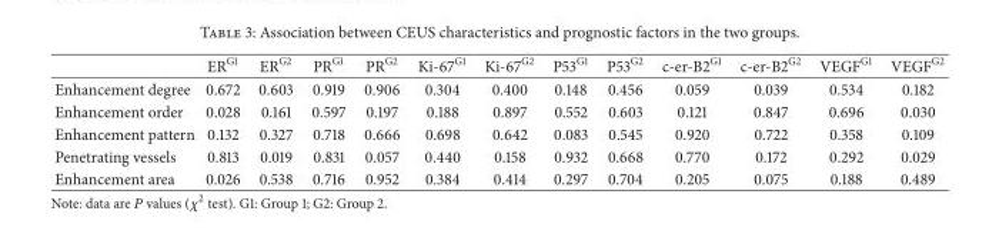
<table><thead><tr><td></td><td>ER<sup>G1</sup></td><td>ER<sup>G2</sup></td><td>PR<sup>G1</sup></td><td>PR<sup>G2</sup></td><td>Ki-67<sup>G1</sup></td><td>Ki-67<sup>G2</sup></td><td>P53<sup>G1</sup></td><td>P53<sup>G2</sup></td><td>c-er-B2<sup>G1</sup></td><td>c-er-B2<sup>G2</sup></td><td>VEGF<sup>G1</sup></td><td>VEGF<sup>G2</sup></td></tr></thead><tbody><tr><td>Enhancement degree</td><td>0.672</td><td>0.603</td><td>0.919</td><td>0.906</td><td>0.304</td><td>0.400</td><td>0.148</td><td>0.456</td><td>0.059</td><td>0.039</td><td>0.534</td><td>0.182</td></tr><tr><td>Enhancement order</td><td>0.028</td><td>0.161</td><td>0.597</td><td>0.197</td><td>0.188</td><td>0.897</td><td>0.552</td><td>0.603</td><td>0.121</td><td>0.847</td><td>0.696</td><td>0.030</td></tr><tr><td>Enhancement pattern</td><td>0.132</td><td>0.327</td><td>0.718</td><td>0.666</td><td>0.698</td><td>0.642</td><td>0.083</td><td>0.545</td><td>0.920</td><td>0.722</td><td>0.358</td><td>0.109</td></tr><tr><td>Penetrating vessels</td><td>0.813</td><td>0.019</td><td>0.831</td><td>0.057</td><td>0.440</td><td>0.158</td><td>0.932</td><td>0.668</td><td>0.770</td><td>0.172</td><td>0.292</td><td>0.029</td></tr><tr><td>Enhancement area</td><td>0.026</td><td>0.538</td><td>0.716</td><td>0.952</td><td>0.384</td><td>0.414</td><td>0.297</td><td>0.704</td><td>0.205</td><td>0.075</td><td>0.188</td><td>0.489</td></tr></tbody></table>